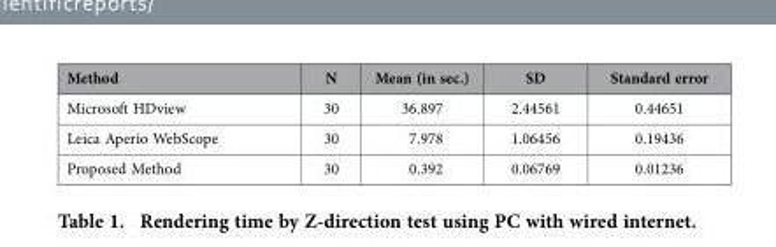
<table><thead><tr><td>Method</td><td>N</td><td>Mean (in sec.)</td><td>SD</td><td>Standard error</td></tr></thead><tbody><tr><td>Microsoft HDview</td><td>30</td><td>36.897</td><td>2.44561</td><td>0.44651</td></tr><tr><td>Leica Aperio WebScope</td><td>30</td><td>7.978</td><td>1.06456</td><td>0.19436</td></tr><tr><td>Proposed Method</td><td>30</td><td>0.392</td><td>0.06769</td><td>0.01236</td></tr></tbody></table>